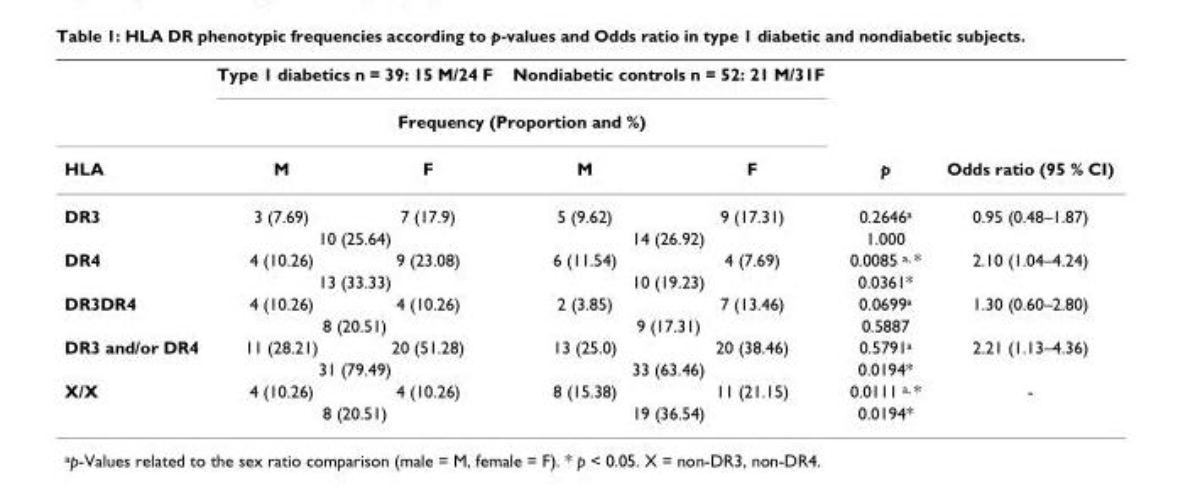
<table><thead><tr><td rowspan="3">HLA</td><td colspan="2">Type 1 diabetics n = 39: 15 M/24 F</td><td colspan="2">Nondiabetic controls n = 52: 21 M/31F</td><td rowspan="3">p</td><td rowspan="3">Odds ratio (95 % CI)</td></tr><tr><td colspan="4">Frequency (Proportion and %)</td></tr><tr><td>M</td><td>F</td><td>M</td><td>F</td></tr></thead><tbody><tr><td rowspan="2">DR3</td><td>3 (7.69)</td><td>7 (17.9)</td><td>5 (9.62)</td><td>9 (17.31)</td><td>0.2646<sup>a</sup></td><td>0.95 (0.48–1.87)</td></tr><tr><td colspan="2">10 (25.64)</td><td colspan="2">14 (26.92)</td><td>1.000</td><td></td></tr><tr><td rowspan="2">DR4</td><td>4 (10.26)</td><td>9 (23.08)</td><td>6 (11.54)</td><td>4 (7.69)</td><td>0.0085 <sup>a,</sup> *</td><td>2.10 (1.04–4.24)</td></tr><tr><td colspan="2">13 (33.33)</td><td colspan="2">10 (19.23)</td><td>0.0361*</td><td></td></tr><tr><td rowspan="2">DR3DR4</td><td>4 (10.26)</td><td>4 (10.26)</td><td>2 (3.85)</td><td>7 (13.46)</td><td>0.0699<sup>a</sup></td><td>1.30 (0.60–2.80)</td></tr><tr><td colspan="2">8 (20.51)</td><td colspan="2">9 (17.31)</td><td>0.5887</td><td></td></tr><tr><td rowspan="2">DR3 and/or DR4</td><td>11 (28.21)</td><td>20 (51.28)</td><td>13 (25.0)</td><td>20 (38.46)</td><td>0.5791<sup>a</sup></td><td>2.21 (1.13–4.36)</td></tr><tr><td colspan="2">31 (79.49)</td><td colspan="2">33 (63.46)</td><td>0.0194*</td><td></td></tr><tr><td rowspan="2">X/X</td><td>4 (10.26)</td><td>4 (10.26)</td><td>8 (15.38)</td><td>11 (21.15)</td><td>0.0111 <sup>a,</sup> *</td><td>-</td></tr><tr><td colspan="2">8 (20.51)</td><td colspan="2">19 (36.54)</td><td>0.0194*</td><td></td></tr></tbody></table>